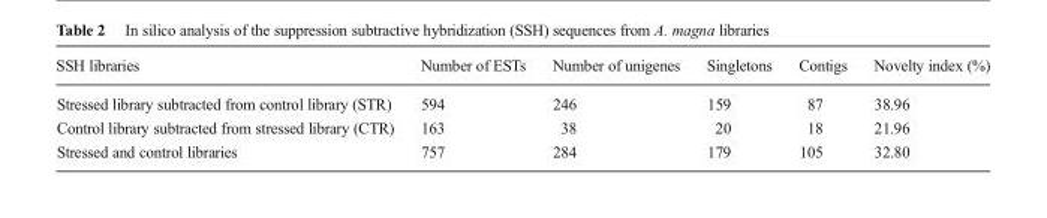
<table><thead><tr><td>SSH libraries</td><td>Number of ESTs</td><td>Number of unigenes</td><td>Singletons</td><td>Contigs</td><td>Novelty index (%)</td></tr></thead><tbody><tr><td>Stressed library subtracted from control library (STR)</td><td>594</td><td>246</td><td>159</td><td>87</td><td>38.96</td></tr><tr><td>Control library subtracted from stressed library (CTR)</td><td>163</td><td>38</td><td>20</td><td>18</td><td>21.96</td></tr><tr><td>Stressed and control libraries</td><td>757</td><td>284</td><td>179</td><td>105</td><td>32.80</td></tr></tbody></table>